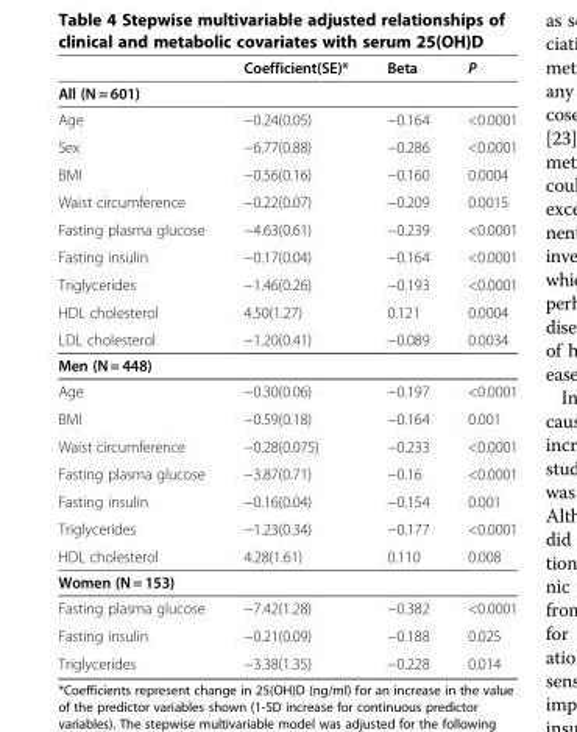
<table><thead><tr><td></td><td>Coefficient(SE)*</td><td>Beta</td><td>P</td></tr></thead><tbody><tr><td colspan="4">All (N = 601)</td></tr><tr><td>Age</td><td>−0.24(0.05)</td><td>−0.164</td><td>&lt;0.0001</td></tr><tr><td>Sex</td><td>−6.77(0.88)</td><td>−0.286</td><td>&lt;0.0001</td></tr><tr><td>BMI</td><td>−0.56(0.16)</td><td>−0.160</td><td>0.0004</td></tr><tr><td>Waist circumference</td><td>−0.22(0.07)</td><td>−0.209</td><td>0.0015</td></tr><tr><td>Fasting plasma glucose</td><td>−4.63(0.61)</td><td>−0.239</td><td>&lt;0.0001</td></tr><tr><td>Fasting insulin</td><td>−0.17(0.04)</td><td>−0.164</td><td>&lt;0.0001</td></tr><tr><td>Triglycerides</td><td>−1.46(0.26)</td><td>−0.193</td><td>&lt;0.0001</td></tr><tr><td>HDL cholesterol</td><td>4.50(1.27)</td><td>0.121</td><td>0.0004</td></tr><tr><td>LDL cholesterol</td><td>−1.20(0.41)</td><td>−0.089</td><td>0.0034</td></tr><tr><td colspan="4">Men (N = 448)</td></tr><tr><td>Age</td><td>−0.30(0.06)</td><td>−0.197</td><td>&lt;0.0001</td></tr><tr><td>BMI</td><td>−0.59(0.18)</td><td>−0.164</td><td>0.001</td></tr><tr><td>Waist circumference</td><td>−0.28(0.075)</td><td>−0.233</td><td>&lt;0.0001</td></tr><tr><td>Fasting plasma glucose</td><td>−3.87(0.71)</td><td>−0.16</td><td>&lt;0.0001</td></tr><tr><td>Fasting insulin</td><td>−0.16(0.04)</td><td>−0.154</td><td>0.001</td></tr><tr><td>Triglycerides</td><td>−1.23(0.34)</td><td>−0.177</td><td>&lt;0.0001</td></tr><tr><td>HDL cholesterol</td><td>4.28(1.61)</td><td>0.110</td><td>0.008</td></tr><tr><td colspan="4">Women (N = 153)</td></tr><tr><td>Fasting plasma glucose</td><td>−7.42(1.28)</td><td>−0.382</td><td>&lt;0.0001</td></tr><tr><td>Fasting insulin</td><td>−0.21(0.09)</td><td>−0.188</td><td>0.025</td></tr><tr><td>Triglycerides</td><td>−3.38(1.35)</td><td>−0.228</td><td>0.014</td></tr></tbody></table>